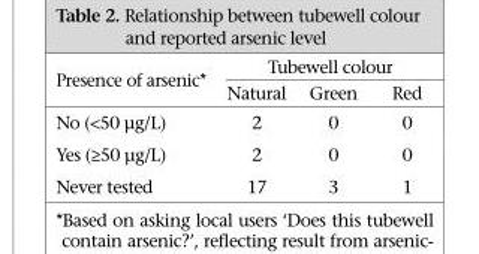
<table><thead><tr><td rowspan="2">Presence of arsenic*</td><td colspan="3">Tubewell colour</td></tr><tr><td>Natural</td><td>Green</td><td>Red</td></tr></thead><tbody><tr><td>No (&lt;50 µg/L)</td><td>2</td><td>0</td><td>0</td></tr><tr><td>Yes (≥50 µg/L)</td><td>2</td><td>0</td><td>0</td></tr><tr><td>Never tested</td><td>17</td><td>3</td><td>1</td></tr></tbody></table>